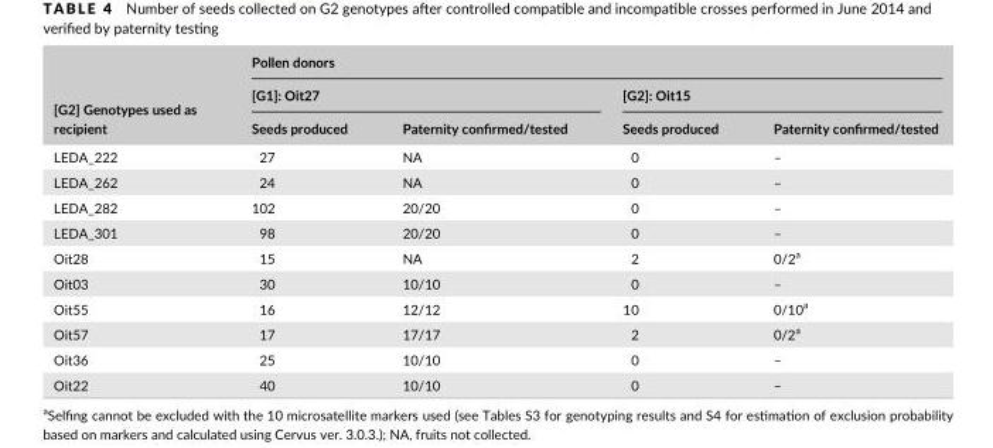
<table><thead><tr><td rowspan="3">[G2] Genotypes used as recipient</td><td colspan="4">Pollen donors</td></tr><tr><td colspan="2">[G1]: Oit27</td><td colspan="2">[G2]: Oit15</td></tr><tr><td>Seeds produced</td><td>Paternity confirmed/tested</td><td>Seeds produced</td><td>Paternity confirmed/tested</td></tr></thead><tbody><tr><td>LEDA_222</td><td>27</td><td>NA</td><td>0</td><td>–</td></tr><tr><td>LEDA_262</td><td>24</td><td>NA</td><td>0</td><td>–</td></tr><tr><td>LEDA_282</td><td>102</td><td>20/20</td><td>0</td><td>–</td></tr><tr><td>LEDA_301</td><td>98</td><td>20/20</td><td>0</td><td>–</td></tr><tr><td>Oit28</td><td>15</td><td>NA</td><td>2</td><td>0/2<sup>a</sup></td></tr><tr><td>Oit03</td><td>30</td><td>10/10</td><td>0</td><td>–</td></tr><tr><td>Oit55</td><td>16</td><td>12/12</td><td>10</td><td>0/10<sup>a</sup></td></tr><tr><td>Oit57</td><td>17</td><td>17/17</td><td>2</td><td>0/2<sup>a</sup></td></tr><tr><td>Oit36</td><td>25</td><td>10/10</td><td>0</td><td>–</td></tr><tr><td>Oit22</td><td>40</td><td>10/10</td><td>0</td><td>–</td></tr></tbody></table>